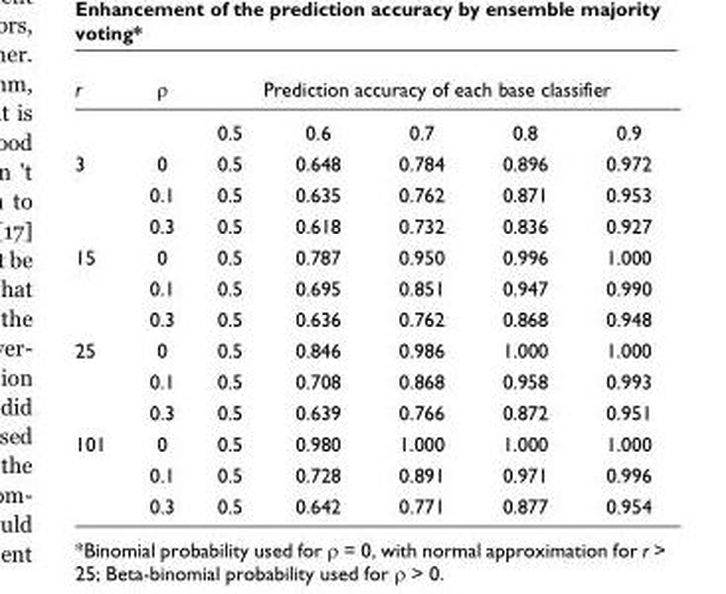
<table><thead><tr><td rowspan="2">r</td><td rowspan="2">ρ</td><td colspan="5">Prediction accuracy of each base classifier</td></tr><tr><td>0.5</td><td>0.6</td><td>0.7</td><td>0.8</td><td>0.9</td></tr></thead><tbody><tr><td rowspan="3">3</td><td>0</td><td>0.5</td><td>0.648</td><td>0.784</td><td>0.896</td><td>0.972</td></tr><tr><td>0.1</td><td>0.5</td><td>0.635</td><td>0.762</td><td>0.871</td><td>0.953</td></tr><tr><td>0.3</td><td>0.5</td><td>0.618</td><td>0.732</td><td>0.836</td><td>0.927</td></tr><tr><td rowspan="3">15</td><td>0</td><td>0.5</td><td>0.787</td><td>0.950</td><td>0.996</td><td>1.000</td></tr><tr><td>0.1</td><td>0.5</td><td>0.695</td><td>0.851</td><td>0.947</td><td>0.990</td></tr><tr><td>0.3</td><td>0.5</td><td>0.636</td><td>0.762</td><td>0.868</td><td>0.948</td></tr><tr><td rowspan="3">25</td><td>0</td><td>0.5</td><td>0.846</td><td>0.986</td><td>1.000</td><td>1.000</td></tr><tr><td>0.1</td><td>0.5</td><td>0.708</td><td>0.868</td><td>0.958</td><td>0.993</td></tr><tr><td>0.3</td><td>0.5</td><td>0.639</td><td>0.766</td><td>0.872</td><td>0.951</td></tr><tr><td rowspan="3">101</td><td>0</td><td>0.5</td><td>0.980</td><td>1.000</td><td>1.000</td><td>1.000</td></tr><tr><td>0.1</td><td>0.5</td><td>0.728</td><td>0.891</td><td>0.971</td><td>0.996</td></tr><tr><td>0.3</td><td>0.5</td><td>0.642</td><td>0.771</td><td>0.877</td><td>0.954</td></tr></tbody></table>